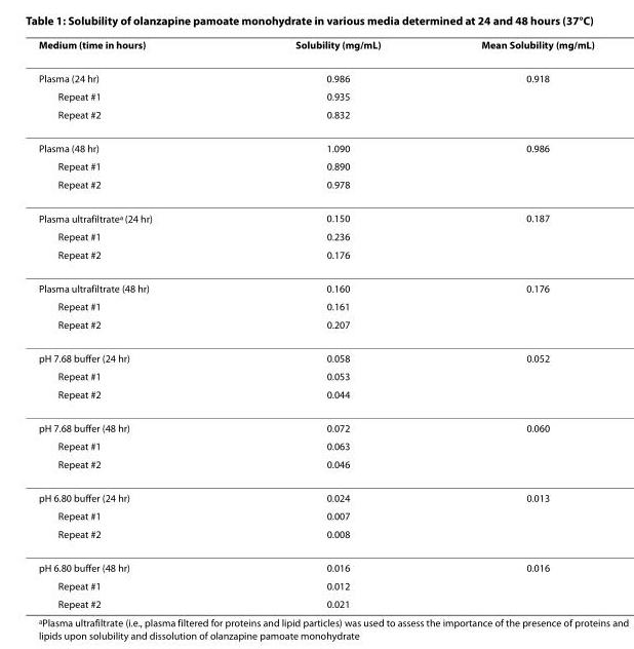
<table><thead><tr><td>Medium (time in hours)</td><td>Solubility (mg/mL)</td><td>Mean Solubility (mg/mL)</td></tr></thead><tbody><tr><td>Plasma (24 hr)</td><td>0.986</td><td>0.918</td></tr><tr><td>Repeat #1</td><td>0.935</td><td></td></tr><tr><td>Repeat #2</td><td>0.832</td><td></td></tr><tr><td>Plasma (48 hr)</td><td>1.090</td><td>0.986</td></tr><tr><td>Repeat #1</td><td>0.890</td><td></td></tr><tr><td>Repeat #2</td><td>0.978</td><td></td></tr><tr><td>Plasma ultrafiltrate<sup>a</sup> (24 hr)</td><td>0.150</td><td>0.187</td></tr><tr><td>Repeat #1</td><td>0.236</td><td></td></tr><tr><td>Repeat #2</td><td>0.176</td><td></td></tr><tr><td>Plasma ultrafiltrate (48 hr)</td><td>0.160</td><td>0.176</td></tr><tr><td>Repeat #1</td><td>0.161</td><td></td></tr><tr><td>Repeat #2</td><td>0.207</td><td></td></tr><tr><td>pH 7.68 buffer (24 hr)</td><td>0.058</td><td>0.052</td></tr><tr><td>Repeat #1</td><td>0.053</td><td></td></tr><tr><td>Repeat #2</td><td>0.044</td><td></td></tr><tr><td>pH 7.68 buffer (48 hr)</td><td>0.072</td><td>0.060</td></tr><tr><td>Repeat #1</td><td>0.063</td><td></td></tr><tr><td>Repeat #2</td><td>0.046</td><td></td></tr><tr><td>pH 6.80 buffer (24 hr)</td><td>0.024</td><td>0.013</td></tr><tr><td>Repeat #1</td><td>0.007</td><td></td></tr><tr><td>Repeat #2</td><td>0.008</td><td></td></tr><tr><td>pH 6.80 buffer (48 hr)</td><td>0.016</td><td>0.016</td></tr><tr><td>Repeat #1</td><td>0.012</td><td></td></tr><tr><td>Repeat #2</td><td>0.021</td><td></td></tr></tbody></table>